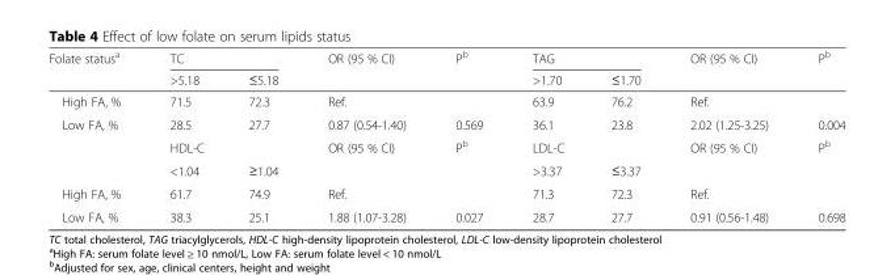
<table><thead><tr><td rowspan="2">Folate status<sup>a</sup></td><td colspan="2">TC</td><td rowspan="2">OR (95 % CI)</td><td rowspan="2">P<sup>b</sup></td><td colspan="2">TAG</td><td rowspan="2">OR (95 % CI)</td><td rowspan="2">P<sup>b</sup></td></tr><tr><td>&gt;5.18</td><td>≤5.18</td><td>&gt;1.70</td><td>≤1.70</td></tr></thead><tbody><tr><td>High FA, %</td><td>71.5</td><td>72.3</td><td>Ref.</td><td></td><td>63.9</td><td>76.2</td><td>Ref.</td><td></td></tr><tr><td rowspan="3">Low FA, %</td><td>28.5</td><td>27.7</td><td>0.87 (0.54-1.40)</td><td>0.569</td><td>36.1</td><td>23.8</td><td>2.02 (1.25-3.25)</td><td>0.004</td></tr><tr><td colspan="2">HDL-C</td><td rowspan="2">OR (95 % CI)</td><td rowspan="2">P<sup>b</sup></td><td colspan="2">LDL-C</td><td rowspan="2">OR (95 % CI)</td><td rowspan="2">P<sup>b</sup></td></tr><tr><td>&lt;1.04</td><td>≥1.04</td><td>&gt;3.37</td><td>≤3.37</td></tr><tr><td>High FA, %</td><td>61.7</td><td>74.9</td><td>Ref.</td><td></td><td>71.3</td><td>72.3</td><td>Ref.</td><td></td></tr><tr><td>Low FA, %</td><td>38.3</td><td>25.1</td><td>1.88 (1.07-3.28)</td><td>0.027</td><td>28.7</td><td>27.7</td><td>0.91 (0.56-1.48)</td><td>0.698</td></tr></tbody></table>